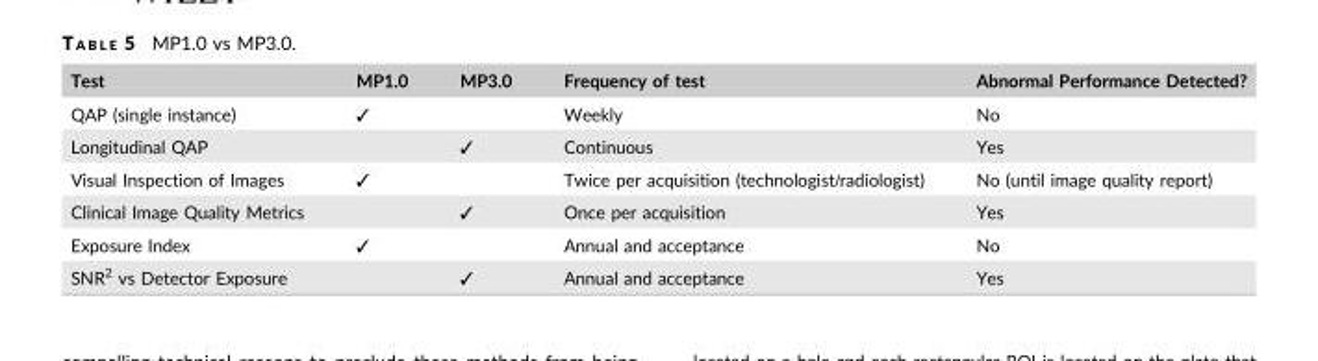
<table><thead><tr><td>Test</td><td>MP1.0</td><td>MP3.0</td><td>Frequency of test</td><td>Abnormal Performance Detected?</td></tr></thead><tbody><tr><td>QAP (single instance)</td><td>✓</td><td></td><td>Weekly</td><td>No</td></tr><tr><td>Longitudinal QAP</td><td></td><td>✓</td><td>Continuous</td><td>Yes</td></tr><tr><td>Visual Inspection of Images</td><td>✓</td><td></td><td>Twice per acquisition (technologist/radiologist)</td><td>No (until image quality report)</td></tr><tr><td>Clinical Image Quality Metrics</td><td></td><td>✓</td><td>Once per acquisition</td><td>Yes</td></tr><tr><td>Exposure Index</td><td>✓</td><td></td><td>Annual and acceptance</td><td>No</td></tr><tr><td>SNR<sup>2</sup> vs Detector Exposure</td><td></td><td>✓</td><td>Annual and acceptance</td><td>Yes</td></tr></tbody></table>